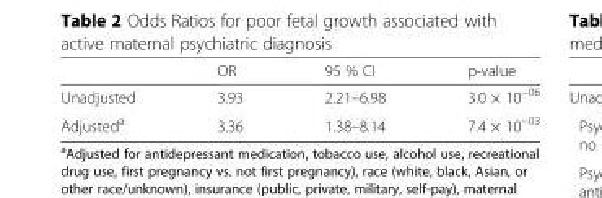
<table><thead><tr><td></td><td>OR</td><td>95 % CI</td><td>p-value</td></tr></thead><tbody><tr><td>Unadjusted</td><td>3.93</td><td>2.21–6.98</td><td>3.0 × 10<sup>−06</sup></td></tr><tr><td>Adjusted<sup>a</sup></td><td>3.36</td><td>1.38–8.14</td><td>7.4 × 10<sup>−03</sup></td></tr></tbody></table>